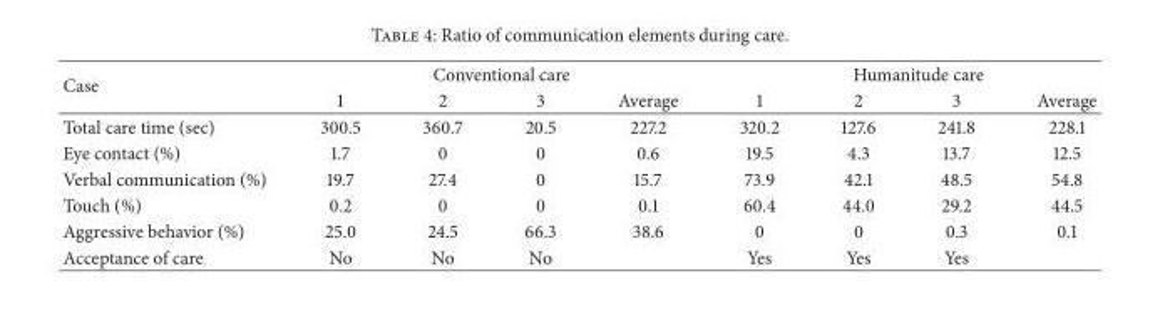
<table><thead><tr><td rowspan="2">Case</td><td colspan="4">Conventional care</td><td colspan="4">Humanitude care</td></tr><tr><td>1</td><td>2</td><td>3</td><td>Average</td><td>1</td><td>2</td><td>3</td><td>Average</td></tr></thead><tbody><tr><td>Total care time (sec)</td><td>300.5</td><td>360.7</td><td>20.5</td><td>227.2</td><td>320.2</td><td>127.6</td><td>241.8</td><td>228.1</td></tr><tr><td>Eye contact (%)</td><td>1.7</td><td>0</td><td>0</td><td>0.6</td><td>19.5</td><td>4.3</td><td>13.7</td><td>12.5</td></tr><tr><td>Verbal communication (%)</td><td>19.7</td><td>27.4</td><td>0</td><td>15.7</td><td>73.9</td><td>42.1</td><td>48.5</td><td>54.8</td></tr><tr><td>Touch (%)</td><td>0.2</td><td>0</td><td>0</td><td>0.1</td><td>60.4</td><td>44.0</td><td>29.2</td><td>44.5</td></tr><tr><td>Aggressive behavior (%)</td><td>25.0</td><td>24.5</td><td>66.3</td><td>38.6</td><td>0</td><td>0</td><td>0.3</td><td>0.1</td></tr><tr><td>Acceptance of care</td><td>No</td><td>No</td><td>No</td><td></td><td>Yes</td><td>Yes</td><td>Yes</td><td></td></tr></tbody></table>